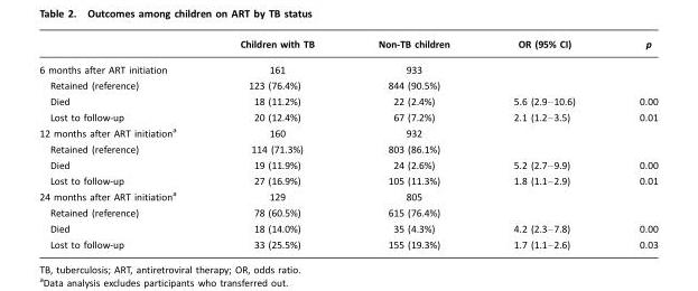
<table><thead><tr><td></td><td>Children with TB</td><td>Non-TB children</td><td>OR (95% CI)</td><td>p</td></tr></thead><tbody><tr><td>6 months after ART initiation</td><td>161</td><td>933</td><td></td><td></td></tr><tr><td>Retained (reference)</td><td>123 (76.4%)</td><td>844 (90.5%)</td><td></td><td></td></tr><tr><td>Died</td><td>18 (11.2%)</td><td>22 (2.4%)</td><td>5.6 (2.9–10.6)</td><td>0.00</td></tr><tr><td>Lost to follow-up</td><td>20 (12.4%)</td><td>67 (7.2%)</td><td>2.1 (1.2–3.5)</td><td>0.01</td></tr><tr><td>12 months after ART initiationa</td><td>160</td><td>932</td><td></td><td></td></tr><tr><td>Retained (reference)</td><td>114 (71.3%)</td><td>803 (86.1%)</td><td></td><td></td></tr><tr><td>Died</td><td>19 (11.9%)</td><td>24 (2.6%)</td><td>5.2 (2.7–9.9)</td><td>0.00</td></tr><tr><td>Lost to follow-up</td><td>27 (16.9%)</td><td>105 (11.3%)</td><td>1.8 (1.1–2.9)</td><td>0.01</td></tr><tr><td>24 months after ART initiationa</td><td>129</td><td>805</td><td></td><td></td></tr><tr><td>Retained (reference)</td><td>78 (60.5%)</td><td>615 (76.4%)</td><td></td><td></td></tr><tr><td>Died</td><td>18 (14.0%)</td><td>35 (4.3%)</td><td>4.2 (2.3–7.8)</td><td>0.00</td></tr><tr><td>Lost to follow-up</td><td>33 (25.5%)</td><td>155 (19.3%)</td><td>1.7 (1.1–2.6)</td><td>0.03</td></tr></tbody></table>